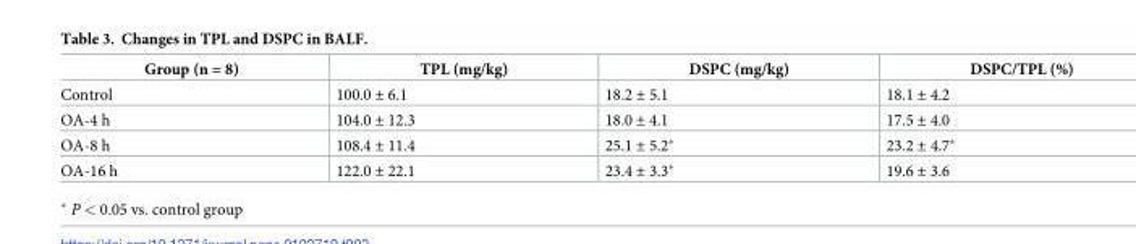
<table><thead><tr><td>Group (n = 8)</td><td>TPL (mg/kg)</td><td>DSPC (mg/kg)</td><td>DSPC/TPL (%)</td></tr></thead><tbody><tr><td>Control</td><td>100.0 ± 6.1</td><td>18.2 ± 5.1</td><td>18.1 ± 4.2</td></tr><tr><td>OA-4 h</td><td>104.0 ± 12.3</td><td>18.0 ± 4.1</td><td>17.5 ± 4.0</td></tr><tr><td>OA-8 h</td><td>108.4 ± 11.4</td><td>25.1 ± 5.2*</td><td>23.2 ± 4.7*</td></tr><tr><td>OA-16 h</td><td>122.0 ± 22.1</td><td>23.4 ± 3.3*</td><td>19.6 ± 3.6</td></tr></tbody></table>